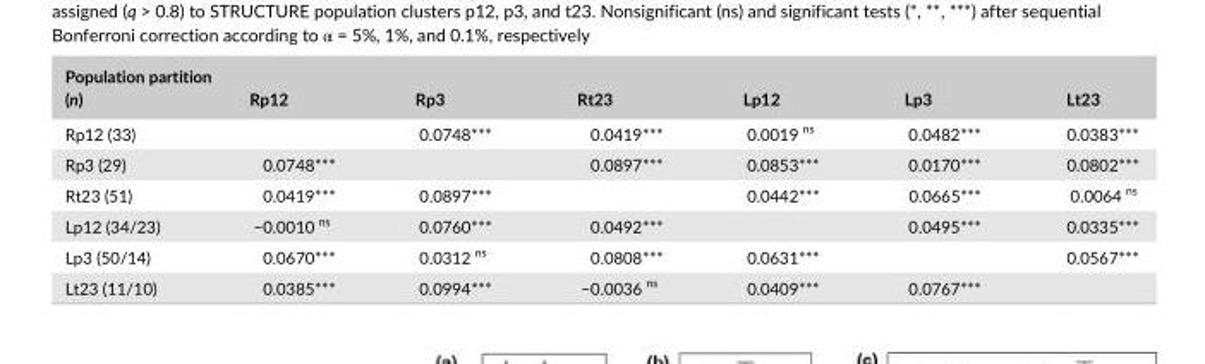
<table><thead><tr><td>Population partition (n)</td><td>Rp12</td><td>Rp3</td><td>Rt23</td><td>Lp12</td><td>Lp3</td><td>Lt23</td></tr></thead><tbody><tr><td>Rp12 (33)</td><td></td><td>0.0748***</td><td>0.0419***</td><td>0.0019 <sup>ns</sup></td><td>0.0482***</td><td>0.0383***</td></tr><tr><td>Rp3 (29)</td><td>0.0748***</td><td></td><td>0.0897***</td><td>0.0853***</td><td>0.0170***</td><td>0.0802***</td></tr><tr><td>Rt23 (51)</td><td>0.0419***</td><td>0.0897***</td><td></td><td>0.0442***</td><td>0.0665***</td><td>0.0064 <sup>ns</sup></td></tr><tr><td>Lp12 (34/23)</td><td>−0.0010 <sup>ns</sup></td><td>0.0760***</td><td>0.0492***</td><td></td><td>0.0495***</td><td>0.0335***</td></tr><tr><td>Lp3 (50/14)</td><td>0.0670***</td><td>0.0312 <sup>ns</sup></td><td>0.0808***</td><td>0.0631***</td><td></td><td>0.0567***</td></tr><tr><td>Lt23 (11/10)</td><td>0.0385***</td><td>0.0994***</td><td>−0.0036 <sup>ns</sup></td><td>0.0409***</td><td>0.0767***</td><td></td></tr></tbody></table>